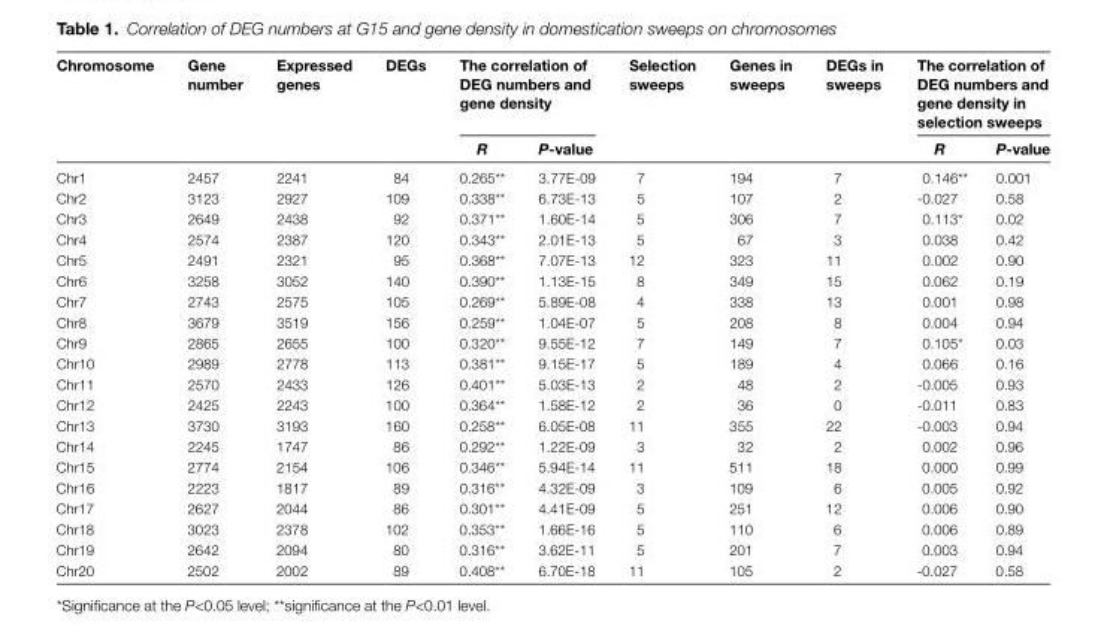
<table><thead><tr><td rowspan="2">Chromosome</td><td rowspan="2">Gene number</td><td rowspan="2">Expressed genes</td><td rowspan="2">DEGs</td><td colspan="2">The correlation of DEG numbers and gene density</td><td rowspan="2">Selection sweeps</td><td rowspan="2">Genes in sweeps</td><td rowspan="2">DEGs in sweeps</td><td colspan="2">The correlation of DEG numbers and gene density in selection sweeps</td></tr><tr><td>R</td><td>P-value</td><td>R</td><td>P-value</td></tr></thead><tbody><tr><td>Chr1</td><td>2457</td><td>2241</td><td>84</td><td>0.265**</td><td>3.77E-09</td><td>7</td><td>194</td><td>7</td><td>0.146**</td><td>0.001</td></tr><tr><td>Chr2</td><td>3123</td><td>2927</td><td>109</td><td>0.338**</td><td>6.73E-13</td><td>5</td><td>107</td><td>2</td><td>-0.027</td><td>0.58</td></tr><tr><td>Chr3</td><td>2649</td><td>2438</td><td>92</td><td>0.371**</td><td>1.60E-14</td><td>5</td><td>306</td><td>7</td><td>0.113*</td><td>0.02</td></tr><tr><td>Chr4</td><td>2574</td><td>2387</td><td>120</td><td>0.343**</td><td>2.01E-13</td><td>5</td><td>67</td><td>3</td><td>0.038</td><td>0.42</td></tr><tr><td>Chr5</td><td>2491</td><td>2321</td><td>95</td><td>0.368**</td><td>7.07E-13</td><td>12</td><td>323</td><td>11</td><td>0.002</td><td>0.90</td></tr><tr><td>Chr6</td><td>3258</td><td>3052</td><td>140</td><td>0.390**</td><td>1.13E-15</td><td>8</td><td>349</td><td>15</td><td>0.062</td><td>0.19</td></tr><tr><td>Chr7</td><td>2743</td><td>2575</td><td>105</td><td>0.269**</td><td>5.89E-08</td><td>4</td><td>338</td><td>13</td><td>0.001</td><td>0.98</td></tr><tr><td>Chr8</td><td>3679</td><td>3519</td><td>156</td><td>0.259**</td><td>1.04E-07</td><td>5</td><td>208</td><td>8</td><td>0.004</td><td>0.94</td></tr><tr><td>Chr9</td><td>2865</td><td>2655</td><td>100</td><td>0.320**</td><td>9.55E-12</td><td>7</td><td>149</td><td>7</td><td>0.105*</td><td>0.03</td></tr><tr><td>Chr10</td><td>2989</td><td>2778</td><td>113</td><td>0.381**</td><td>9.15E-17</td><td>5</td><td>189</td><td>4</td><td>0.066</td><td>0.16</td></tr><tr><td>Chr11</td><td>2570</td><td>2433</td><td>126</td><td>0.401**</td><td>5.03E-13</td><td>2</td><td>48</td><td>2</td><td>-0.005</td><td>0.93</td></tr><tr><td>Chr12</td><td>2425</td><td>2243</td><td>100</td><td>0.364**</td><td>1.58E-12</td><td>2</td><td>36</td><td>0</td><td>-0.011</td><td>0.83</td></tr><tr><td>Chr13</td><td>3730</td><td>3193</td><td>160</td><td>0.258**</td><td>6.05E-08</td><td>11</td><td>355</td><td>22</td><td>-0.003</td><td>0.94</td></tr><tr><td>Chr14</td><td>2245</td><td>1747</td><td>86</td><td>0.292**</td><td>1.22E-09</td><td>3</td><td>32</td><td>2</td><td>0.002</td><td>0.96</td></tr><tr><td>Chr15</td><td>2774</td><td>2154</td><td>106</td><td>0.346**</td><td>5.94E-14</td><td>11</td><td>511</td><td>18</td><td>0.000</td><td>0.99</td></tr><tr><td>Chr16</td><td>2223</td><td>1817</td><td>89</td><td>0.316**</td><td>4.32E-09</td><td>3</td><td>109</td><td>6</td><td>0.005</td><td>0.92</td></tr><tr><td>Chr17</td><td>2627</td><td>2044</td><td>86</td><td>0.301**</td><td>4.41E-09</td><td>5</td><td>251</td><td>12</td><td>0.006</td><td>0.90</td></tr><tr><td>Chr18</td><td>3023</td><td>2378</td><td>102</td><td>0.353**</td><td>1.66E-16</td><td>5</td><td>110</td><td>6</td><td>0.006</td><td>0.89</td></tr><tr><td>Chr19</td><td>2642</td><td>2094</td><td>80</td><td>0.316**</td><td>3.62E-11</td><td>5</td><td>201</td><td>7</td><td>0.003</td><td>0.94</td></tr><tr><td>Chr20</td><td>2502</td><td>2002</td><td>89</td><td>0.408**</td><td>6.70E-18</td><td>11</td><td>105</td><td>2</td><td>-0.027</td><td>0.58</td></tr></tbody></table>